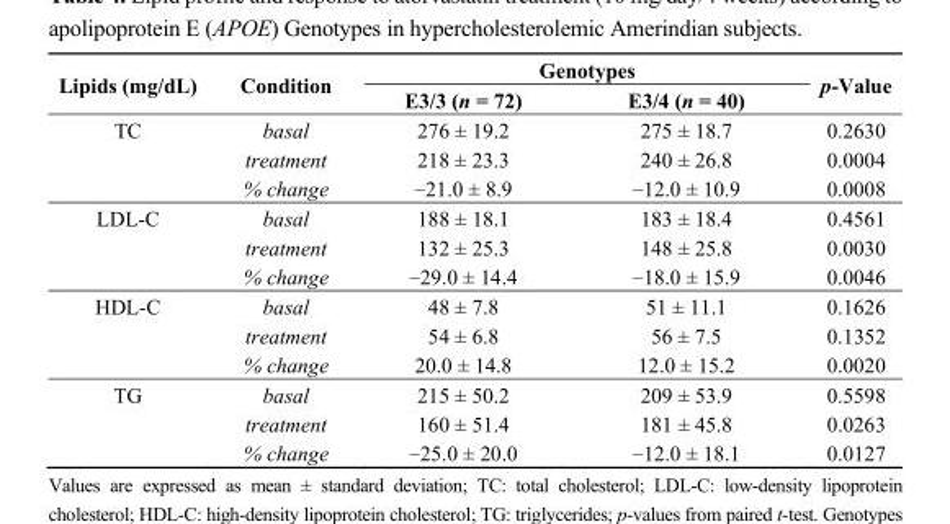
<table><thead><tr><td rowspan="2">Lipids (mg/dL)</td><td rowspan="2">Condition</td><td colspan="2">Genotypes</td><td rowspan="2">p-Value</td></tr><tr><td>E3/3 (n = 72)</td><td>E3/4 (n = 40)</td></tr></thead><tbody><tr><td rowspan="3">TC</td><td>basal</td><td>276 ± 19.2</td><td>275 ± 18.7</td><td>0.2630</td></tr><tr><td>treatment</td><td>218 ± 23.3</td><td>240 ± 26.8</td><td>0.0004</td></tr><tr><td>% change</td><td>−21.0 ± 8.9</td><td>−12.0 ± 10.9</td><td>0.0008</td></tr><tr><td rowspan="3">LDL-C</td><td>basal</td><td>188 ± 18.1</td><td>183 ± 18.4</td><td>0.4561</td></tr><tr><td>treatment</td><td>132 ± 25.3</td><td>148 ± 25.8</td><td>0.0030</td></tr><tr><td>% change</td><td>−29.0 ± 14.4</td><td>−18.0 ± 15.9</td><td>0.0046</td></tr><tr><td rowspan="3">HDL-C</td><td>basal</td><td>48 ± 7.8</td><td>51 ± 11.1</td><td>0.1626</td></tr><tr><td>treatment</td><td>54 ± 6.8</td><td>56 ± 7.5</td><td>0.1352</td></tr><tr><td>% change</td><td>20.0 ± 14.8</td><td>12.0 ± 15.2</td><td>0.0020</td></tr><tr><td rowspan="3">TG</td><td>basal</td><td>215 ± 50.2</td><td>209 ± 53.9</td><td>0.5598</td></tr><tr><td>treatment</td><td>160 ± 51.4</td><td>181 ± 45.8</td><td>0.0263</td></tr><tr><td>% change</td><td>−25.0 ± 20.0</td><td>−12.0 ± 18.1</td><td>0.0127</td></tr></tbody></table>